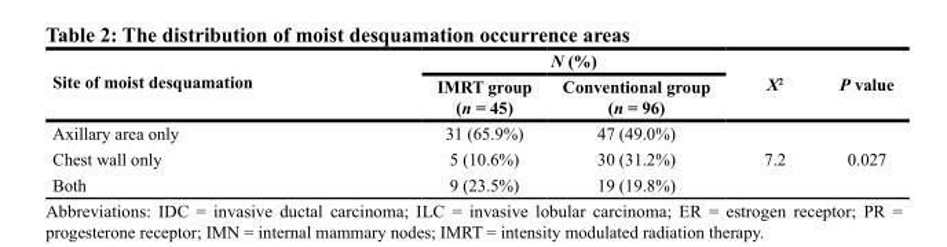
<table><thead><tr><td rowspan="2">Site of moist desquamation</td><td colspan="2">N (%)</td><td rowspan="2">X<sup>2</sup></td><td rowspan="2">P value</td></tr><tr><td>IMRT group (n = 45)</td><td>Conventional group (n = 96)</td></tr></thead><tbody><tr><td>Axillary area only</td><td>31 (65.9%)</td><td>47 (49.0%)</td><td rowspan="3">7.2</td><td rowspan="3">0.027</td></tr><tr><td>Chest wall only</td><td>5 (10.6%)</td><td>30 (31.2%)</td></tr><tr><td>Both</td><td>9 (23.5%)</td><td>19 (19.8%)</td></tr></tbody></table>